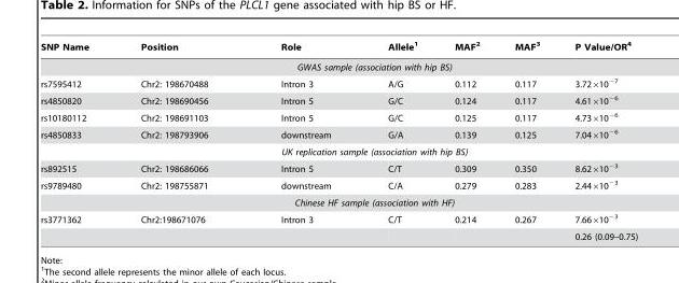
<table><thead><tr><td>SNP Name</td><td>Position</td><td>Role</td><td>Allele<sup>1</sup></td><td>MAF<sup>2</sup></td><td>MAF<sup>3</sup></td><td>P Value/OR<sup>4</sup></td></tr></thead><tbody><tr><td colspan="7">GWAS sample (association with hip BS)</td></tr><tr><td>rs7595412</td><td>Chr2: 198670488</td><td>Intron 3</td><td>A/G</td><td>0.112</td><td>0.117</td><td>3.72×10<sup>−7</sup></td></tr><tr><td>rs4850820</td><td>Chr2: 198690456</td><td>Intron 5</td><td>G/C</td><td>0.124</td><td>0.117</td><td>4.61×10<sup>−6</sup></td></tr><tr><td>rs10180112</td><td>Chr2: 198691103</td><td>Intron 5</td><td>G/C</td><td>0.125</td><td>0.117</td><td>4.73×10<sup>−6</sup></td></tr><tr><td>rs4850833</td><td>Chr2: 198793906</td><td>downstream</td><td>G/A</td><td>0.139</td><td>0.125</td><td>7.04×10<sup>−6</sup></td></tr><tr><td colspan="7">UK replication sample (association with hip BS)</td></tr><tr><td>rs892515</td><td>Chr2: 198686066</td><td>Intron 5</td><td>C/T</td><td>0.309</td><td>0.350</td><td>8.62×10<sup>−3</sup></td></tr><tr><td>rs9789480</td><td>Chr2: 198755871</td><td>downstream</td><td>C/A</td><td>0.279</td><td>0.283</td><td>2.44×10<sup>−3</sup></td></tr><tr><td colspan="7">Chinese HF sample (association with HF)</td></tr><tr><td rowspan="2">rs3771362</td><td>Chr2:198671076</td><td>Intron 3</td><td>C/T</td><td>0.214</td><td>0.267</td><td>7.66×10<sup>−3</sup></td></tr><tr><td></td><td></td><td></td><td></td><td></td><td>0.26 (0.09–0.75)</td></tr></tbody></table>